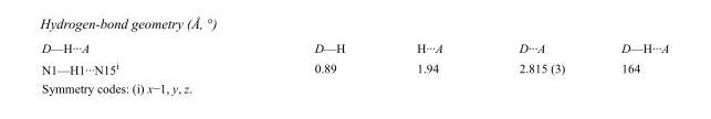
<table><tbody><tr><td>D—H···A</td><td>D—H</td><td>H···A</td><td>D···A</td><td>D—H···A</td></tr><tr><td>N1—H1···N15<sup>i</sup></td><td>0.89</td><td>1.94</td><td>2.815 (3)</td><td>164</td></tr></tbody></table>